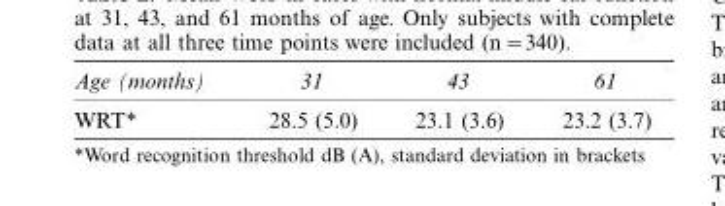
<table><thead><tr><td>Age (months)</td><td>31</td><td>43</td><td>61</td></tr></thead><tbody><tr><td>WRT*</td><td>28.5 (5.0)</td><td>23.1 (3.6)</td><td>23.2 (3.7)</td></tr></tbody></table>